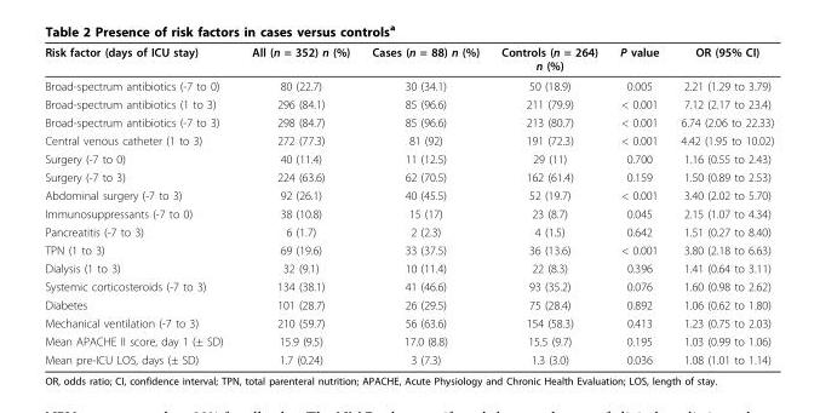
<table><thead><tr><td>Risk factor (days of ICU stay)</td><td>All (n = 352) n (%)</td><td>Cases (n = 88) n (%)</td><td>Controls (n = 264) n (%)</td><td>P value</td><td>OR (95% CI)</td></tr></thead><tbody><tr><td>Broad-spectrum antibiotics (-7 to 0)</td><td>80 (22.7)</td><td>30 (34.1)</td><td>50 (18.9)</td><td>0.005</td><td>2.21 (1.29 to 3.79)</td></tr><tr><td>Broad-spectrum antibiotics (1 to 3)</td><td>296 (84.1)</td><td>85 (96.6)</td><td>211 (79.9)</td><td>&lt; 0.001</td><td>7.12 (2.17 to 23.4)</td></tr><tr><td>Broad-spectrum antibiotics (-7 to 3)</td><td>298 (84.7)</td><td>85 (96.6)</td><td>213 (80.7)</td><td>&lt; 0.001</td><td>6.74 (2.06 to 22.33)</td></tr><tr><td>Central venous catheter (1 to 3)</td><td>272 (77.3)</td><td>81 (92)</td><td>191 (72.3)</td><td>&lt; 0.001</td><td>4.42 (1.95 to 10.02)</td></tr><tr><td>Surgery (-7 to 0)</td><td>40 (11.4)</td><td>11 (12.5)</td><td>29 (11)</td><td>0.700</td><td>1.16 (0.55 to 2.43)</td></tr><tr><td>Surgery (-7 to 3)</td><td>224 (63.6)</td><td>62 (70.5)</td><td>162 (61.4)</td><td>0.159</td><td>1.50 (0.89 to 2.53)</td></tr><tr><td>Abdominal surgery (-7 to 3)</td><td>92 (26.1)</td><td>40 (45.5)</td><td>52 (19.7)</td><td>&lt; 0.001</td><td>3.40 (2.02 to 5.70)</td></tr><tr><td>Immunosuppressants (-7 to 0)</td><td>38 (10.8)</td><td>15 (17)</td><td>23 (8.7)</td><td>0.045</td><td>2.15 (1.07 to 4.34)</td></tr><tr><td>Pancreatitis (-7 to 3)</td><td>6 (1.7)</td><td>2 (2.3)</td><td>4 (1.5)</td><td>0.642</td><td>1.51 (0.27 to 8.40)</td></tr><tr><td>TPN (1 to 3)</td><td>69 (19.6)</td><td>33 (37.5)</td><td>36 (13.6)</td><td>&lt; 0.001</td><td>3.80 (2.18 to 6.63)</td></tr><tr><td>Dialysis (1 to 3)</td><td>32 (9.1)</td><td>10 (11.4)</td><td>22 (8.3)</td><td>0.396</td><td>1.41 (0.64 to 3.11)</td></tr><tr><td>Systemic corticosteroids (-7 to 3)</td><td>134 (38.1)</td><td>41 (46.6)</td><td>93 (35.2)</td><td>0.076</td><td>1.60 (0.98 to 2.62)</td></tr><tr><td>Diabetes</td><td>101 (28.7)</td><td>26 (29.5)</td><td>75 (28.4)</td><td>0.892</td><td>1.06 (0.62 to 1.80)</td></tr><tr><td>Mechanical ventilation (-7 to 3)</td><td>210 (59.7)</td><td>56 (63.6)</td><td>154 (58.3)</td><td>0.413</td><td>1.23 (0.75 to 2.03)</td></tr><tr><td>Mean APACHE II score, day 1 (± SD)</td><td>15.9 (9.5)</td><td>17.0 (8.8)</td><td>15.5 (9.7)</td><td>0.195</td><td>1.03 (0.99 to 1.06)</td></tr><tr><td>Mean pre-ICU LOS, days (± SD)</td><td>1.7 (0.24)</td><td>3 (7.3)</td><td>1.3 (3.0)</td><td>0.036</td><td>1.08 (1.01 to 1.14)</td></tr></tbody></table>